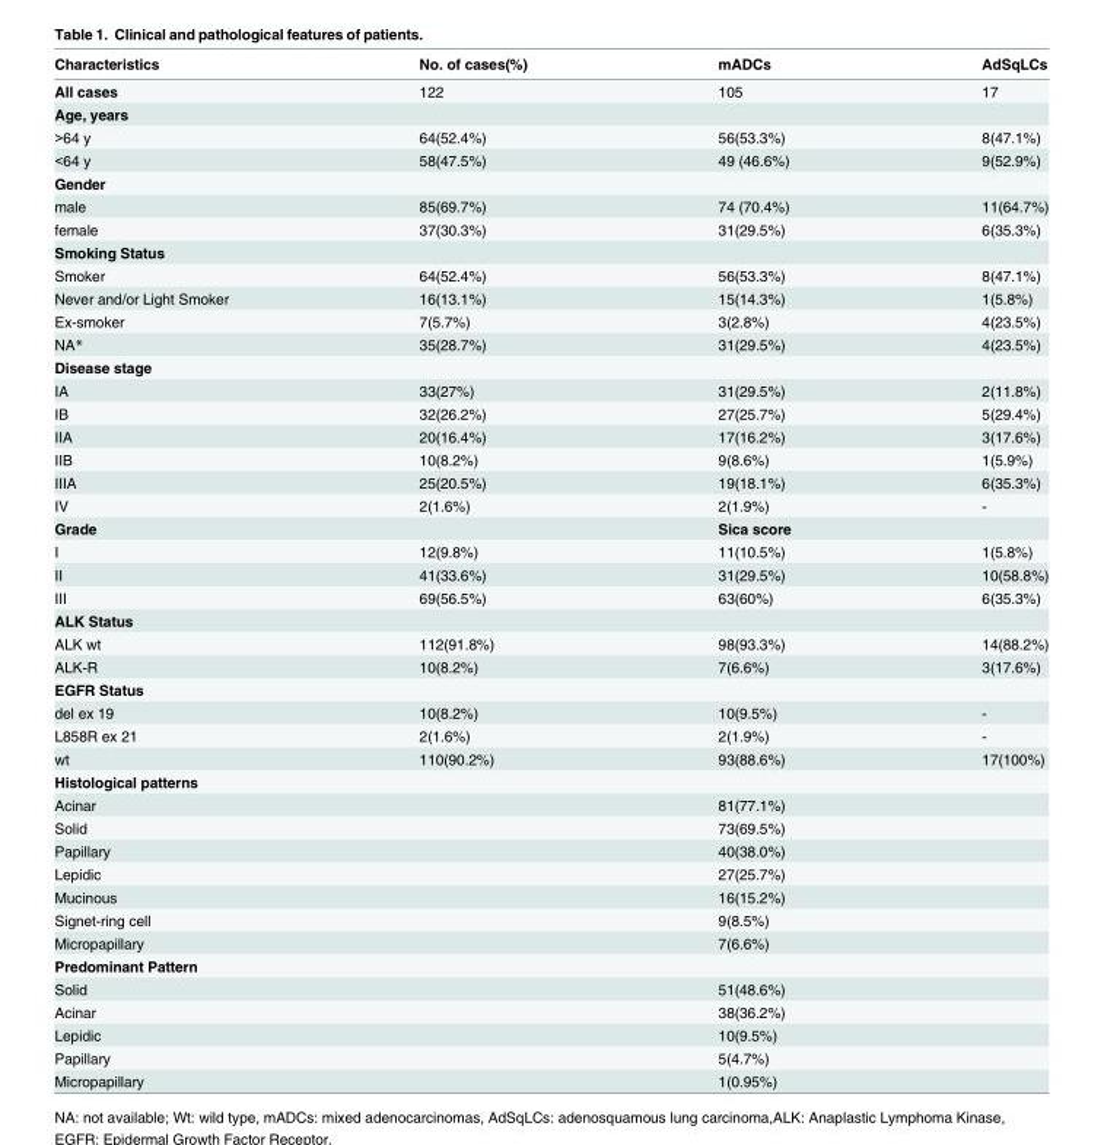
<table><thead><tr><td>Characteristics</td><td>No. of cases(%)</td><td>mADCs</td><td>AdSqLCs</td></tr></thead><tbody><tr><td>All cases</td><td>122</td><td>105</td><td>17</td></tr><tr><td colspan="4">Age, years</td></tr><tr><td>&gt;64 y</td><td>64(52.4%)</td><td>56(53.3%)</td><td>8(47.1%)</td></tr><tr><td>&lt;64 y</td><td>58(47.5%)</td><td>49 (46.6%)</td><td>9(52.9%)</td></tr><tr><td colspan="4">Gender</td></tr><tr><td>male</td><td>85(69.7%)</td><td>74 (70.4%)</td><td>11(64.7%)</td></tr><tr><td>female</td><td>37(30.3%)</td><td>31(29.5%)</td><td>6(35.3%)</td></tr><tr><td colspan="4">Smoking Status</td></tr><tr><td>Smoker</td><td>64(52.4%)</td><td>56(53.3%)</td><td>8(47.1%)</td></tr><tr><td>Never and/or Light Smoker</td><td>16(13.1%)</td><td>15(14.3%)</td><td>1(5.8%)</td></tr><tr><td>Ex-smoker</td><td>7(5.7%)</td><td>3(2.8%)</td><td>4(23.5%)</td></tr><tr><td>NA*</td><td>35(28.7%)</td><td>31(29.5%)</td><td>4(23.5%)</td></tr><tr><td colspan="4">Disease stage</td></tr><tr><td>IA</td><td>33(27%)</td><td>31(29.5%)</td><td>2(11.8%)</td></tr><tr><td>IB</td><td>32(26.2%)</td><td>27(25.7%)</td><td>5(29.4%)</td></tr><tr><td>IIA</td><td>20(16.4%)</td><td>17(16.2%)</td><td>3(17.6%)</td></tr><tr><td>IIB</td><td>10(8.2%)</td><td>9(8.6%)</td><td>1(5.9%)</td></tr><tr><td>IIIA</td><td>25(20.5%)</td><td>19(18.1%)</td><td>6(35.3%)</td></tr><tr><td>IV</td><td>2(1.6%)</td><td>2(1.9%)</td><td>-</td></tr><tr><td>Grade</td><td></td><td>Sica score</td><td></td></tr><tr><td>I</td><td>12(9.8%)</td><td>11(10.5%)</td><td>1(5.8%)</td></tr><tr><td>II</td><td>41(33.6%)</td><td>31(29.5%)</td><td>10(58.8%)</td></tr><tr><td>III</td><td>69(56.5%)</td><td>63(60%)</td><td>6(35.3%)</td></tr><tr><td colspan="4">ALK Status</td></tr><tr><td>ALK wt</td><td>112(91.8%)</td><td>98(93.3%)</td><td>14(88.2%)</td></tr><tr><td>ALK-R</td><td>10(8.2%)</td><td>7(6.6%)</td><td>3(17.6%)</td></tr><tr><td colspan="4">EGFR Status</td></tr><tr><td>del ex 19</td><td>10(8.2%)</td><td>10(9.5%)</td><td>-</td></tr><tr><td>L858R ex 21</td><td>2(1.6%)</td><td>2(1.9%)</td><td>-</td></tr><tr><td>wt</td><td>110(90.2%)</td><td>93(88.6%)</td><td>17(100%)</td></tr><tr><td colspan="4">Histological patterns</td></tr><tr><td>Acinar</td><td></td><td>81(77.1%)</td><td></td></tr><tr><td>Solid</td><td></td><td>73(69.5%)</td><td></td></tr><tr><td>Papillary</td><td></td><td>40(38.0%)</td><td></td></tr><tr><td>Lepidic</td><td></td><td>27(25.7%)</td><td></td></tr><tr><td>Mucinous</td><td></td><td>16(15.2%)</td><td></td></tr><tr><td>Signet-ring cell</td><td></td><td>9(8.5%)</td><td></td></tr><tr><td>Micropapillary</td><td></td><td>7(6.6%)</td><td></td></tr><tr><td colspan="4">Predominant Pattern</td></tr><tr><td>Solid</td><td></td><td>51(48.6%)</td><td></td></tr><tr><td>Acinar</td><td></td><td>38(36.2%)</td><td></td></tr><tr><td>Lepidic</td><td></td><td>10(9.5%)</td><td></td></tr><tr><td>Papillary</td><td></td><td>5(4.7%)</td><td></td></tr><tr><td>Micropapillary</td><td></td><td>1(0.95%)</td><td></td></tr></tbody></table>